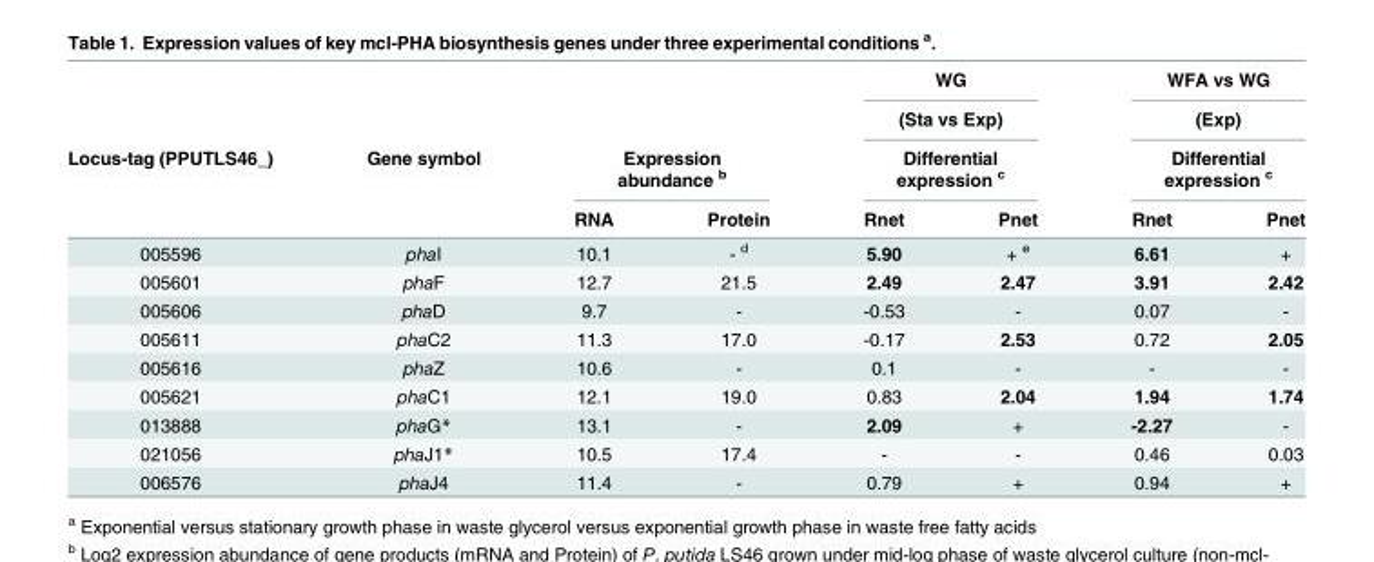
<table><thead><tr><td rowspan="4">Locus-tag (PPUTLS46_)</td><td rowspan="4">Gene symbol</td><td rowspan="2"></td><td rowspan="2"></td><td rowspan="3" colspan="2">WG (Sta vs Exp) Differential expression <sup>c</sup></td><td rowspan="3" colspan="2">WFA vs WG (Exp) Differential expression <sup>c</sup></td></tr><tr></tr><tr><td colspan="2">Expression abundance <sup>b</sup></td></tr><tr><td>RNA</td><td>Protein</td><td>Rnet</td><td>Pnet</td><td>Rnet</td><td>Pnet</td></tr></thead><tbody><tr><td>005596</td><td>phaI</td><td>10.1</td><td>- <sup>d</sup></td><td>5.90</td><td>+ <sup>e</sup></td><td>6.61</td><td>+</td></tr><tr><td>005601</td><td>phaF</td><td>12.7</td><td>21.5</td><td>2.49</td><td>2.47</td><td>3.91</td><td>2.42</td></tr><tr><td>005606</td><td>phaD</td><td>9.7</td><td>-</td><td>-0.53</td><td>-</td><td>0.07</td><td>-</td></tr><tr><td>005611</td><td>phaC2</td><td>11.3</td><td>17.0</td><td>-0.17</td><td>2.53</td><td>0.72</td><td>2.05</td></tr><tr><td>005616</td><td>phaZ</td><td>10.6</td><td>-</td><td>0.1</td><td>-</td><td>-</td><td>-</td></tr><tr><td>005621</td><td>phaC1</td><td>12.1</td><td>19.0</td><td>0.83</td><td>2.04</td><td>1.94</td><td>1.74</td></tr><tr><td>013888</td><td>phaG*</td><td>13.1</td><td>-</td><td>2.09</td><td>+</td><td>-2.27</td><td>-</td></tr><tr><td>021056</td><td>phaJ1*</td><td>10.5</td><td>17.4</td><td>-</td><td>-</td><td>0.46</td><td>0.03</td></tr><tr><td>006576</td><td>phaJ4</td><td>11.4</td><td>-</td><td>0.79</td><td>+</td><td>0.94</td><td>+</td></tr></tbody></table>